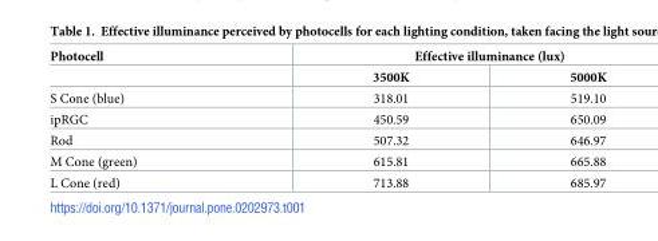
<table><thead><tr><td rowspan="2">Photocell</td><td colspan="2">Effective illuminance (lux)</td></tr><tr><td>3500K</td><td>5000K</td></tr></thead><tbody><tr><td>S Cone (blue)</td><td>318.01</td><td>519.10</td></tr><tr><td>ipRGC</td><td>450.59</td><td>650.09</td></tr><tr><td>Rod</td><td>507.32</td><td>646.97</td></tr><tr><td>M Cone (green)</td><td>615.81</td><td>665.88</td></tr><tr><td>L Cone (red)</td><td>713.88</td><td>685.97</td></tr></tbody></table>